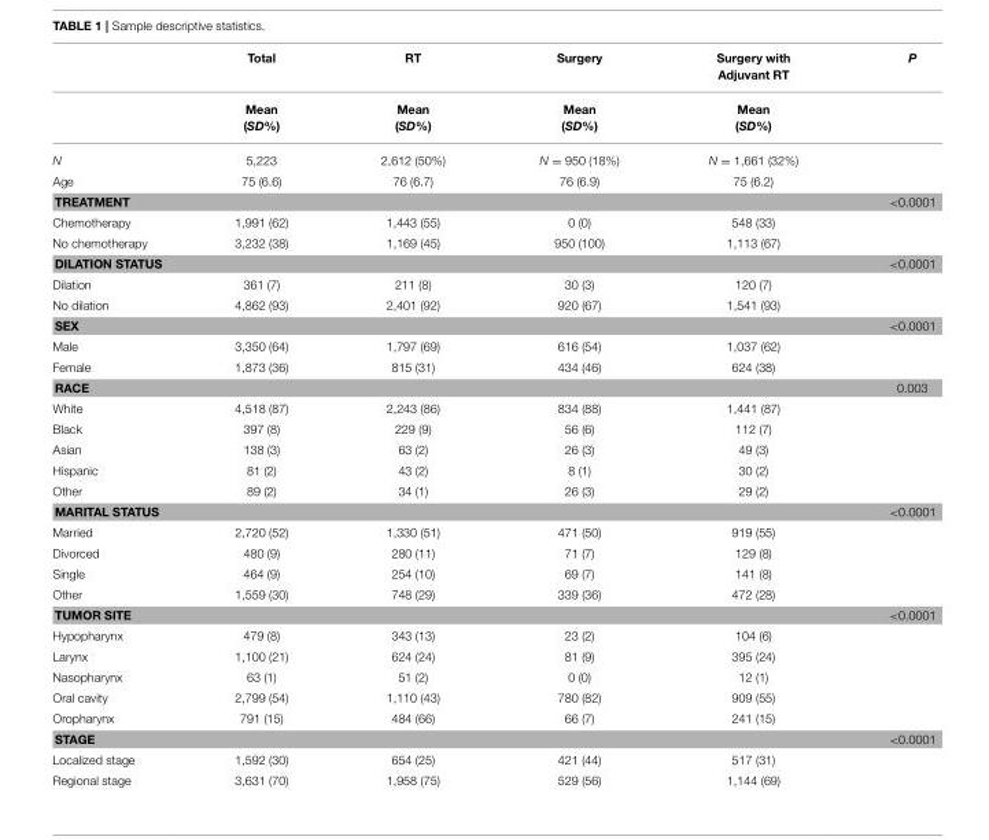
<table><thead><tr><td></td><td>Total</td><td>RT</td><td>Surgery</td><td>Surgery with Adjuvant RT</td><td>P</td></tr></thead><tbody><tr><td></td><td>Mean (SD%)</td><td>Mean (SD%)</td><td>Mean (SD%)</td><td>Mean (SD%)</td><td></td></tr><tr><td>N</td><td>5,223</td><td>2,612 (50%)</td><td>N = 950 (18%)</td><td>N = 1,661 (32%)</td><td></td></tr><tr><td>Age</td><td>75 (6.6)</td><td>76 (6.7)</td><td>76 (6.9)</td><td>75 (6.2)</td><td></td></tr><tr><td colspan="5">TREATMENT</td><td>&lt;0.0001</td></tr><tr><td>Chemotherapy</td><td>1,991 (62)</td><td>1,443 (55)</td><td>0 (0)</td><td>548 (33)</td><td></td></tr><tr><td>No chemotherapy</td><td>3,232 (38)</td><td>1,169 (45)</td><td>950 (100)</td><td>1,113 (67)</td><td></td></tr><tr><td colspan="5">DILATION STATUS</td><td>&lt;0.0001</td></tr><tr><td>Dilation</td><td>361 (7)</td><td>211 (8)</td><td>30 (3)</td><td>120 (7)</td><td></td></tr><tr><td>No dilation</td><td>4,862 (93)</td><td>2,401 (92)</td><td>920 (67)</td><td>1,541 (93)</td><td></td></tr><tr><td colspan="5">SEX</td><td>&lt;0.0001</td></tr><tr><td>Male</td><td>3,350 (64)</td><td>1,797 (69)</td><td>616 (54)</td><td>1,037 (62)</td><td></td></tr><tr><td>Female</td><td>1,873 (36)</td><td>815 (31)</td><td>434 (46)</td><td>624 (38)</td><td></td></tr><tr><td colspan="5">RACE</td><td>0.003</td></tr><tr><td>White</td><td>4,518 (87)</td><td>2,243 (86)</td><td>834 (88)</td><td>1,441 (87)</td><td></td></tr><tr><td>Black</td><td>397 (8)</td><td>229 (9)</td><td>56 (6)</td><td>112 (7)</td><td></td></tr><tr><td>Asian</td><td>138 (3)</td><td>63 (2)</td><td>26 (3)</td><td>49 (3)</td><td></td></tr><tr><td>Hispanic</td><td>81 (2)</td><td>43 (2)</td><td>8 (1)</td><td>30 (2)</td><td></td></tr><tr><td>Other</td><td>89 (2)</td><td>34 (1)</td><td>26 (3)</td><td>29 (2)</td><td></td></tr><tr><td colspan="5">MARITAL STATUS</td><td>&lt;0.0001</td></tr><tr><td>Married</td><td>2,720 (52)</td><td>1,330 (51)</td><td>471 (50)</td><td>919 (55)</td><td></td></tr><tr><td>Divorced</td><td>480 (9)</td><td>280 (11)</td><td>71 (7)</td><td>129 (8)</td><td></td></tr><tr><td>Single</td><td>464 (9)</td><td>254 (10)</td><td>69 (7)</td><td>141 (8)</td><td></td></tr><tr><td>Other</td><td>1,559 (30)</td><td>748 (29)</td><td>339 (36)</td><td>472 (28)</td><td></td></tr><tr><td colspan="5">TUMOR SITE</td><td>&lt;0.0001</td></tr><tr><td>Hypopharynx</td><td>479 (8)</td><td>343 (13)</td><td>23 (2)</td><td>104 (6)</td><td></td></tr><tr><td>Larynx</td><td>1,100 (21)</td><td>624 (24)</td><td>81 (9)</td><td>395 (24)</td><td></td></tr><tr><td>Nasopharynx</td><td>63 (1)</td><td>51 (2)</td><td>0 (0)</td><td>12 (1)</td><td></td></tr><tr><td>Oral cavity</td><td>2,799 (54)</td><td>1,110 (43)</td><td>780 (82)</td><td>909 (55)</td><td></td></tr><tr><td>Oropharynx</td><td>791 (15)</td><td>484 (66)</td><td>66 (7)</td><td>241 (15)</td><td></td></tr><tr><td colspan="5">STAGE</td><td>&lt;0.0001</td></tr><tr><td>Localized stage</td><td>1,592 (30)</td><td>654 (25)</td><td>421 (44)</td><td>517 (31)</td><td></td></tr><tr><td>Regional stage</td><td>3,631 (70)</td><td>1,958 (75)</td><td>529 (56)</td><td>1,144 (69)</td><td></td></tr></tbody></table>